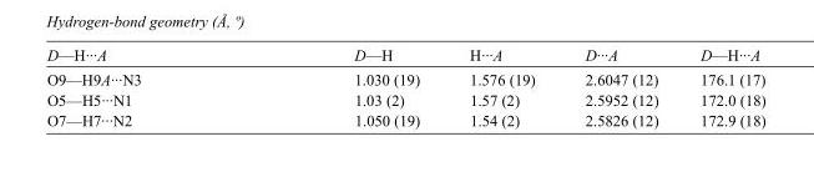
<table><tbody><tr><td>D—H···A</td><td>D—H</td><td>H···A</td><td>D···A</td><td>D—H···A</td></tr><tr><td>O9—H9A···N3</td><td>1.030 (19)</td><td>1.576 (19)</td><td>2.6047 (12)</td><td>176.1 (17)</td></tr><tr><td>O5—H5···N1</td><td>1.03 (2)</td><td>1.57 (2)</td><td>2.5952 (12)</td><td>172.0 (18)</td></tr><tr><td>O7—H7···N2</td><td>1.050 (19)</td><td>1.54 (2)</td><td>2.5826 (12)</td><td>172.9 (18)</td></tr></tbody></table>